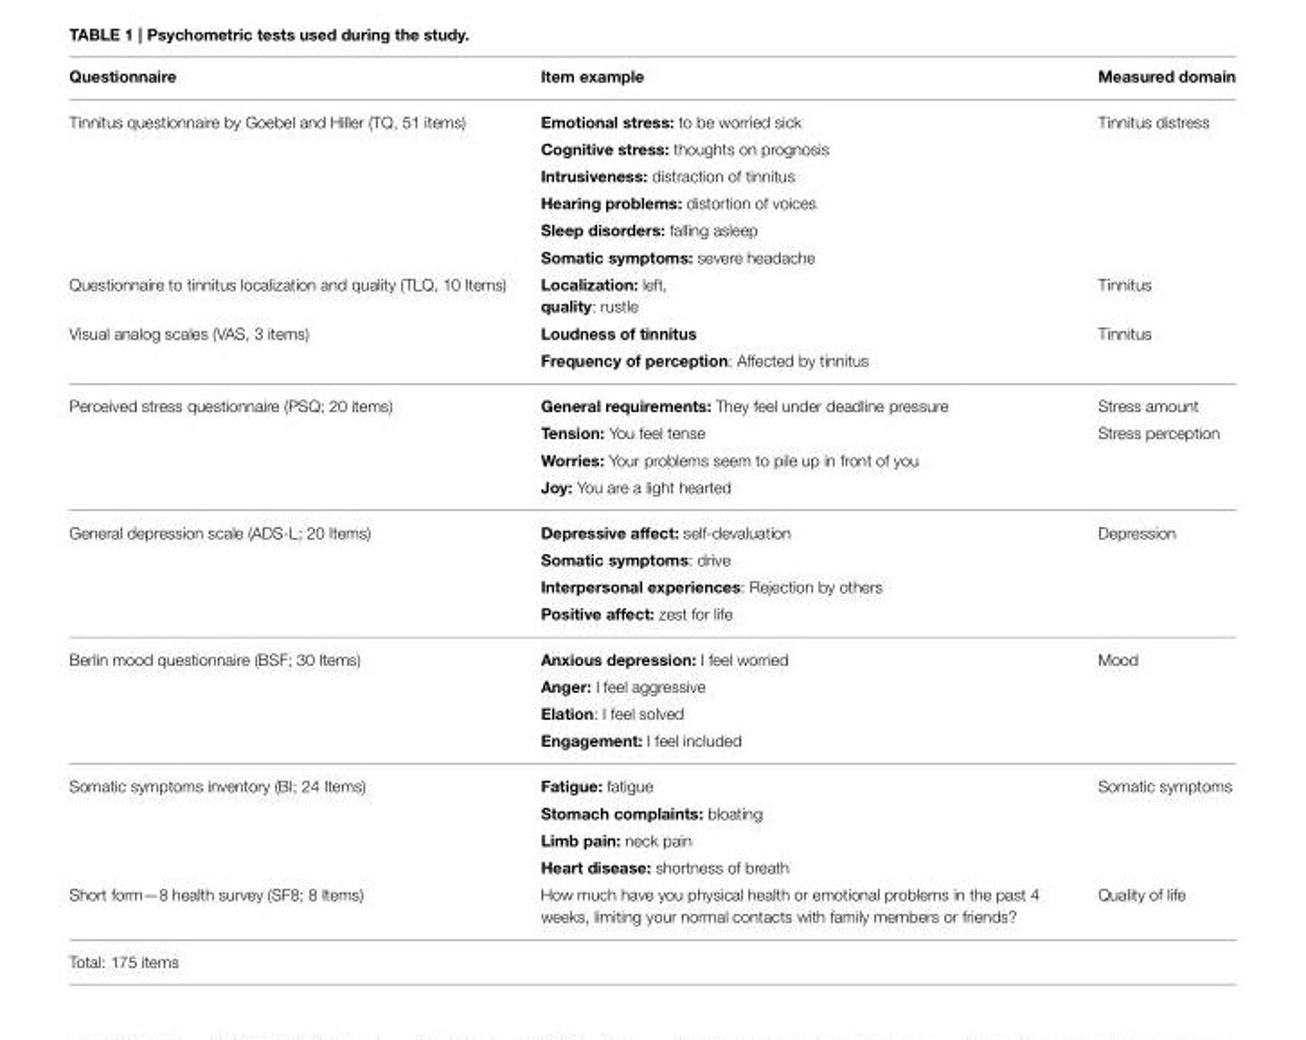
<table><thead><tr><td>Questionnaire</td><td>Item example</td><td>Measured domain</td></tr></thead><tbody><tr><td rowspan="6">Tinnitus questionnaire by Goebel and Hiller (TQ, 51 items)</td><td>Emotional stress: to be worried sick</td><td>Tinnitus distress</td></tr><tr><td>Cognitive stress: thoughts on prognosis</td><td></td></tr><tr><td>Intrusiveness: distraction of tinnitus</td><td></td></tr><tr><td>Hearing problems: distortion of voices</td><td></td></tr><tr><td>Sleep disorders: falling asleep</td><td></td></tr><tr><td>Somatic symptoms: severe headache</td><td></td></tr><tr><td>Questionnaire to tinnitus localization and quality (TLQ, 10 Items)</td><td>Localization: left, quality: rustle</td><td>Tinnitus</td></tr><tr><td rowspan="2">Visual analog scales (VAS, 3 items)</td><td>Loudness of tinnitus</td><td>Tinnitus</td></tr><tr><td>Frequency of perception: Affected by tinnitus</td><td></td></tr><tr><td rowspan="4">Perceived stress questionnaire (PSQ; 20 items)</td><td>General requirements: They feel under deadline pressure</td><td>Stress amount</td></tr><tr><td>Tension: You feel tense</td><td>Stress perception</td></tr><tr><td>Worries: Your problems seem to pile up in front of you</td><td></td></tr><tr><td>Joy: You are a light hearted</td><td></td></tr><tr><td rowspan="4">General depression scale (ADS-L; 20 Items)</td><td>Depressive affect: self-devaluation</td><td>Depression</td></tr><tr><td>Somatic symptoms: drive</td><td></td></tr><tr><td>Interpersonal experiences: Rejection by others</td><td></td></tr><tr><td>Positive affect: zest for life</td><td></td></tr><tr><td rowspan="4">Berlin mood questionnaire (BSF; 30 Items)</td><td>Anxious depression: I feel worried</td><td>Mood</td></tr><tr><td>Anger: I feel aggressive</td><td></td></tr><tr><td>Elation: I feel solved</td><td></td></tr><tr><td>Engagement: I feel included</td><td></td></tr><tr><td rowspan="4">Somatic symptoms inventory (BI; 24 Items)</td><td>Fatigue: fatigue</td><td>Somatic symptoms</td></tr><tr><td>Stomach complaints: bloating</td><td></td></tr><tr><td>Limb pain: neck pain</td><td></td></tr><tr><td>Heart disease: shortness of breath</td><td></td></tr><tr><td>Short form—8 health survey (SF8; 8 Items)</td><td>How much have you physical health or emotional problems in the past 4 weeks, limiting your normal contacts with family members or friends?</td><td>Quality of life</td></tr><tr><td colspan="3">Total: 175 items</td></tr></tbody></table>